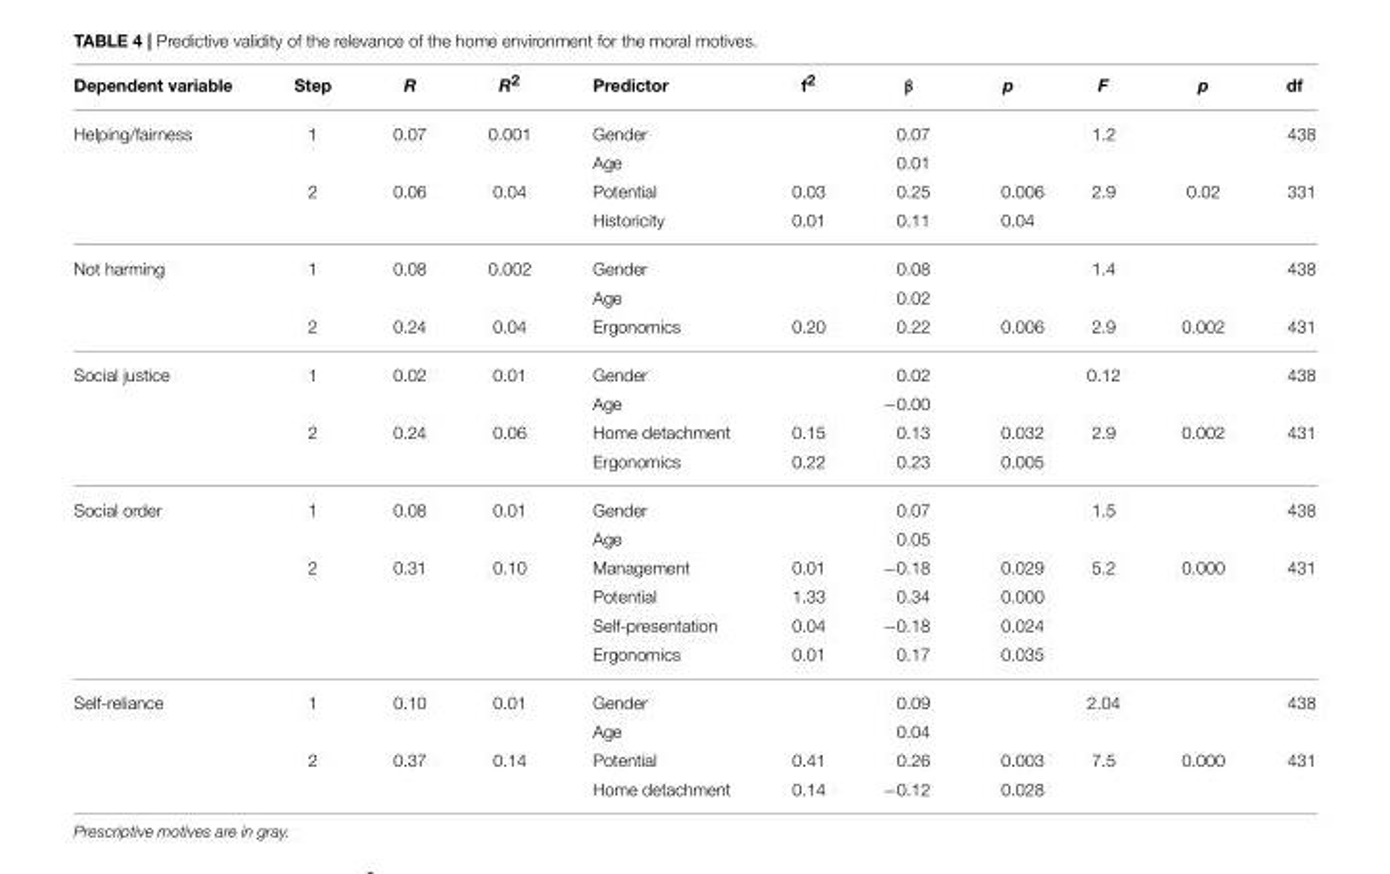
<table><thead><tr><td>Dependent variable</td><td>Step</td><td>R</td><td>R<sup>2</sup></td><td>Predictor</td><td>f<sup>2</sup></td><td>β</td><td>p</td><td>F</td><td>p</td><td>df</td></tr></thead><tbody><tr><td rowspan="4">Helping/fairness</td><td>1</td><td>0.07</td><td>0.001</td><td>Gender</td><td></td><td>0.07</td><td></td><td>1.2</td><td></td><td>438</td></tr><tr><td></td><td></td><td></td><td>Age</td><td></td><td>0.01</td><td></td><td></td><td></td><td></td></tr><tr><td>2</td><td>0.06</td><td>0.04</td><td>Potential</td><td>0.03</td><td>0.25</td><td>0.006</td><td>2.9</td><td>0.02</td><td>331</td></tr><tr><td></td><td></td><td></td><td>Historicity</td><td>0.01</td><td>0.11</td><td>0.04</td><td></td><td></td><td></td></tr><tr><td rowspan="3">Not harming</td><td>1</td><td>0.08</td><td>0.002</td><td>Gender</td><td></td><td>0.08</td><td></td><td>1.4</td><td></td><td>438</td></tr><tr><td></td><td></td><td></td><td>Age</td><td></td><td>0.02</td><td></td><td></td><td></td><td></td></tr><tr><td>2</td><td>0.24</td><td>0.04</td><td>Ergonomics</td><td>0.20</td><td>0.22</td><td>0.006</td><td>2.9</td><td>0.002</td><td>431</td></tr><tr><td rowspan="4">Social justice</td><td>1</td><td>0.02</td><td>0.01</td><td>Gender</td><td></td><td>0.02</td><td></td><td>0.12</td><td></td><td>438</td></tr><tr><td></td><td></td><td></td><td>Age</td><td></td><td>−0.00</td><td></td><td></td><td></td><td></td></tr><tr><td>2</td><td>0.24</td><td>0.06</td><td>Home detachment</td><td>0.15</td><td>0.13</td><td>0.032</td><td>2.9</td><td>0.002</td><td>431</td></tr><tr><td></td><td></td><td></td><td>Ergonomics</td><td>0.22</td><td>0.23</td><td>0.005</td><td></td><td></td><td></td></tr><tr><td rowspan="6">Social order</td><td>1</td><td>0.08</td><td>0.01</td><td>Gender</td><td></td><td>0.07</td><td></td><td>1.5</td><td></td><td>438</td></tr><tr><td></td><td></td><td></td><td>Age</td><td></td><td>0.05</td><td></td><td></td><td></td><td></td></tr><tr><td>2</td><td>0.31</td><td>0.10</td><td>Management</td><td>0.01</td><td>−0.18</td><td>0.029</td><td>5.2</td><td>0.000</td><td>431</td></tr><tr><td></td><td></td><td></td><td>Potential</td><td>1.33</td><td>0.34</td><td>0.000</td><td></td><td></td><td></td></tr><tr><td></td><td></td><td></td><td>Self-presentation</td><td>0.04</td><td>−0.18</td><td>0.024</td><td></td><td></td><td></td></tr><tr><td></td><td></td><td></td><td>Ergonomics</td><td>0.01</td><td>0.17</td><td>0.035</td><td></td><td></td><td></td></tr><tr><td rowspan="4">Self-reliance</td><td>1</td><td>0.10</td><td>0.01</td><td>Gender</td><td></td><td>0.09</td><td></td><td>2.04</td><td></td><td>438</td></tr><tr><td></td><td></td><td></td><td>Age</td><td></td><td>0.04</td><td></td><td></td><td></td><td></td></tr><tr><td>2</td><td>0.37</td><td>0.14</td><td>Potential</td><td>0.41</td><td>0.26</td><td>0.003</td><td>7.5</td><td>0.000</td><td>431</td></tr><tr><td></td><td></td><td></td><td>Home detachment</td><td>0.14</td><td>−0.12</td><td>0.028</td><td></td><td></td><td></td></tr></tbody></table>